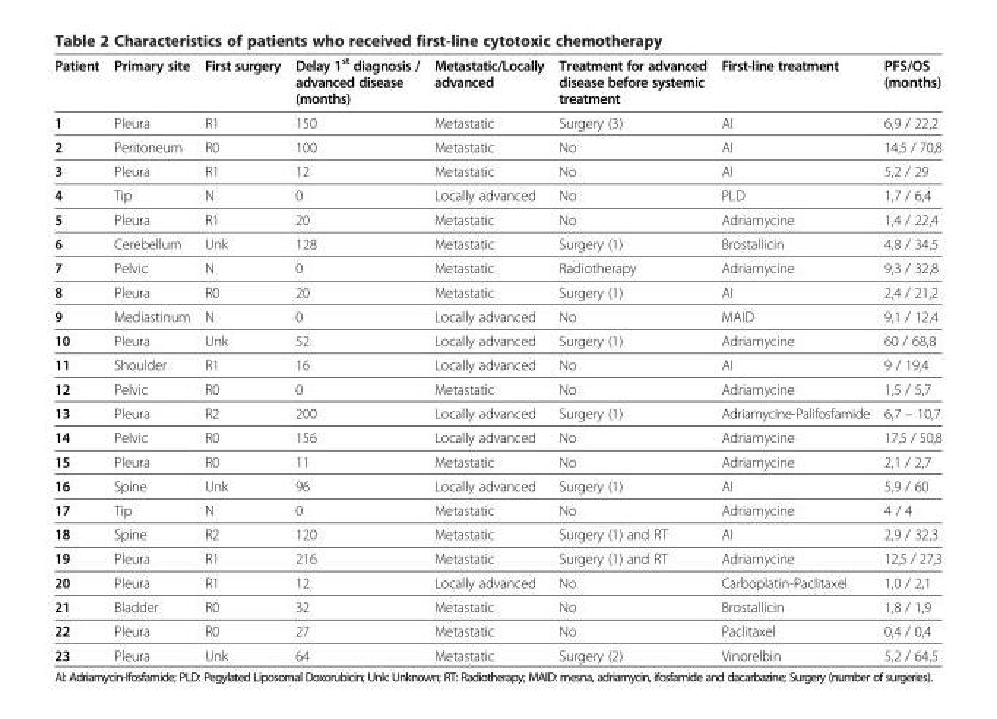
<table><thead><tr><td>Patient</td><td>Primary site</td><td>First surgery</td><td>Delay 1<sup>st</sup> diagnosis / advanced disease (months)</td><td>Metastatic/Locally advanced</td><td>Treatment for advanced disease before systemic treatment</td><td>First-line treatment</td><td>PFS/OS (months)</td></tr></thead><tbody><tr><td>1</td><td>Pleura</td><td>R1</td><td>150</td><td>Metastatic</td><td>Surgery (3)</td><td>AI</td><td>6,9 / 22,2</td></tr><tr><td>2</td><td>Peritoneum</td><td>R0</td><td>100</td><td>Metastatic</td><td>No</td><td>AI</td><td>14,5 / 70,8</td></tr><tr><td>3</td><td>Pleura</td><td>R1</td><td>12</td><td>Metastatic</td><td>No</td><td>AI</td><td>5,2 / 29</td></tr><tr><td>4</td><td>Tip</td><td>N</td><td>0</td><td>Locally advanced</td><td>No</td><td>PLD</td><td>1,7 / 6,4</td></tr><tr><td>5</td><td>Pleura</td><td>R1</td><td>20</td><td>Metastatic</td><td>No</td><td>Adriamycine</td><td>1,4 / 22,4</td></tr><tr><td>6</td><td>Cerebellum</td><td>Unk</td><td>128</td><td>Metastatic</td><td>Surgery (1)</td><td>Brostallicin</td><td>4,8 / 34,5</td></tr><tr><td>7</td><td>Pelvic</td><td>N</td><td>0</td><td>Metastatic</td><td>Radiotherapy</td><td>Adriamycine</td><td>9,3 / 32,8</td></tr><tr><td>8</td><td>Pleura</td><td>R0</td><td>20</td><td>Metastatic</td><td>Surgery (1)</td><td>AI</td><td>2,4 / 21,2</td></tr><tr><td>9</td><td>Mediastinum</td><td>N</td><td>0</td><td>Locally advanced</td><td>No</td><td>MAID</td><td>9,1 / 12,4</td></tr><tr><td>10</td><td>Pleura</td><td>Unk</td><td>52</td><td>Locally advanced</td><td>Surgery (1)</td><td>Adriamycine</td><td>60 / 68,8</td></tr><tr><td>11</td><td>Shoulder</td><td>R1</td><td>16</td><td>Locally advanced</td><td>No</td><td>AI</td><td>9 / 19,4</td></tr><tr><td>12</td><td>Pelvic</td><td>R0</td><td>0</td><td>Metastatic</td><td>No</td><td>Adriamycine</td><td>1,5 / 5,7</td></tr><tr><td>13</td><td>Pleura</td><td>R2</td><td>200</td><td>Locally advanced</td><td>Surgery (1)</td><td>Adriamycine-Palifosfamide</td><td>6,7 – 10,7</td></tr><tr><td>14</td><td>Pelvic</td><td>R0</td><td>156</td><td>Locally advanced</td><td>No</td><td>Adriamycine</td><td>17,5 / 50,8</td></tr><tr><td>15</td><td>Pleura</td><td>R0</td><td>11</td><td>Metastatic</td><td>No</td><td>Adriamycine</td><td>2,1 / 2,7</td></tr><tr><td>16</td><td>Spine</td><td>Unk</td><td>96</td><td>Locally advanced</td><td>Surgery (1)</td><td>AI</td><td>5,9 / 60</td></tr><tr><td>17</td><td>Tip</td><td>N</td><td>0</td><td>Metastatic</td><td>No</td><td>Adriamycine</td><td>4 / 4</td></tr><tr><td>18</td><td>Spine</td><td>R2</td><td>120</td><td>Metastatic</td><td>Surgery (1) and RT</td><td>AI</td><td>2,9 / 32,3</td></tr><tr><td>19</td><td>Pleura</td><td>R1</td><td>216</td><td>Metastatic</td><td>Surgery (1) and RT</td><td>Adriamycine</td><td>12,5 / 27,3</td></tr><tr><td>20</td><td>Pleura</td><td>R1</td><td>12</td><td>Locally advanced</td><td>No</td><td>Carboplatin-Paclitaxel</td><td>1,0 / 2,1</td></tr><tr><td>21</td><td>Bladder</td><td>R0</td><td>32</td><td>Metastatic</td><td>No</td><td>Brostallicin</td><td>1,8 / 1,9</td></tr><tr><td>22</td><td>Pleura</td><td>R0</td><td>27</td><td>Metastatic</td><td>No</td><td>Paclitaxel</td><td>0,4 / 0,4</td></tr><tr><td>23</td><td>Pleura</td><td>Unk</td><td>64</td><td>Metastatic</td><td>Surgery (2)</td><td>Vinorelbin</td><td>5,2 / 64,5</td></tr></tbody></table>